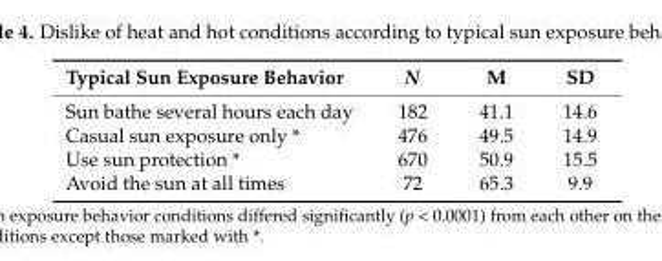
<table><thead><tr><td>Typical Sun Exposure Behavior</td><td>N</td><td>M</td><td>SD</td></tr></thead><tbody><tr><td>Sun bathe several hours each day</td><td>182</td><td>41.1</td><td>14.6</td></tr><tr><td>Casual sun exposure only *</td><td>476</td><td>49.5</td><td>14.9</td></tr><tr><td>Use sun protection *</td><td>670</td><td>50.9</td><td>15.5</td></tr><tr><td>Avoid the sun at all times</td><td>72</td><td>65.3</td><td>9.9</td></tr></tbody></table>